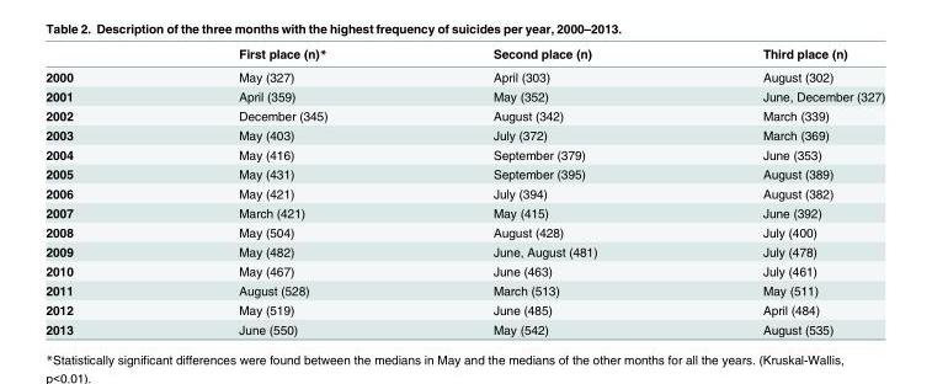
<table><thead><tr><td></td><td>First place (n)*</td><td>Second place (n)</td><td>Third place (n)</td></tr></thead><tbody><tr><td>2000</td><td>May (327)</td><td>April (303)</td><td>August (302)</td></tr><tr><td>2001</td><td>April (359)</td><td>May (352)</td><td>June, December (327)</td></tr><tr><td>2002</td><td>December (345)</td><td>August (342)</td><td>March (339)</td></tr><tr><td>2003</td><td>May (403)</td><td>July (372)</td><td>March (369)</td></tr><tr><td>2004</td><td>May (416)</td><td>September (379)</td><td>June (353)</td></tr><tr><td>2005</td><td>May (431)</td><td>September (395)</td><td>August (389)</td></tr><tr><td>2006</td><td>May (421)</td><td>July (394)</td><td>August (382)</td></tr><tr><td>2007</td><td>March (421)</td><td>May (415)</td><td>June (392)</td></tr><tr><td>2008</td><td>May (504)</td><td>August (428)</td><td>July (400)</td></tr><tr><td>2009</td><td>May (482)</td><td>June, August (481)</td><td>July (478)</td></tr><tr><td>2010</td><td>May (467)</td><td>June (463)</td><td>July (461)</td></tr><tr><td>2011</td><td>August (528)</td><td>March (513)</td><td>May (511)</td></tr><tr><td>2012</td><td>May (519)</td><td>June (485)</td><td>April (484)</td></tr><tr><td>2013</td><td>June (550)</td><td>May (542)</td><td>August (535)</td></tr></tbody></table>